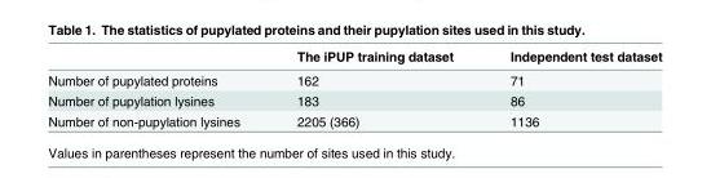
<table><thead><tr><td></td><td>The iPUP training dataset</td><td>Independent test dataset</td></tr></thead><tbody><tr><td>Number of pupylated proteins</td><td>162</td><td>71</td></tr><tr><td>Number of pupylation lysines</td><td>183</td><td>86</td></tr><tr><td>Number of non-pupylation lysines</td><td>2205 (366)</td><td>1136</td></tr></tbody></table>